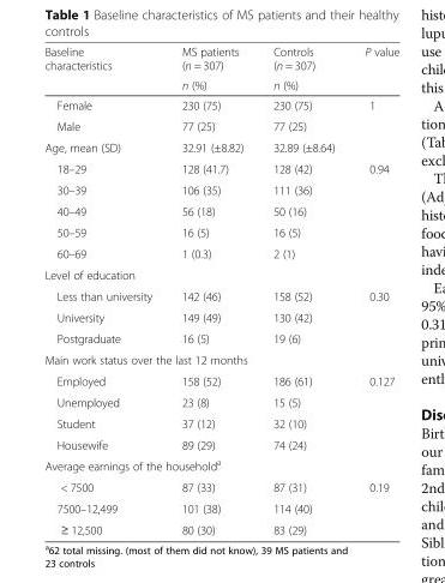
<table><thead><tr><td rowspan="2">Baseline characteristics</td><td rowspan="2">MS patients (n = 307) n (%)</td><td rowspan="2">Controls (n = 307) n (%)</td><td rowspan="2">P value</td></tr><tr></tr></thead><tbody><tr><td>Female</td><td>230 (75)</td><td>230 (75)</td><td rowspan="2">1</td></tr><tr><td>Male</td><td>77 (25)</td><td>77 (25)</td></tr><tr><td>Age, mean (SD)</td><td>32.91 (±8.82)</td><td>32.89 (±8.64)</td><td></td></tr><tr><td>18–29</td><td>128 (41.7)</td><td>128 (42)</td><td rowspan="5">0.94</td></tr><tr><td>30–39</td><td>106 (35)</td><td>111 (36)</td></tr><tr><td>40–49</td><td>56 (18)</td><td>50 (16)</td></tr><tr><td>50–59</td><td>16 (5)</td><td>16 (5)</td></tr><tr><td>60–69</td><td>1 (0.3)</td><td>2 (1)</td></tr><tr><td colspan="4">Level of education</td></tr><tr><td>Less than university</td><td>142 (46)</td><td>158 (52)</td><td rowspan="3">0.30</td></tr><tr><td>University</td><td>149 (49)</td><td>130 (42)</td></tr><tr><td>Postgraduate</td><td>16 (5)</td><td>19 (6)</td></tr><tr><td colspan="4">Main work status over the last 12 months</td></tr><tr><td>Employed</td><td>158 (52)</td><td>186 (61)</td><td rowspan="4">0.127</td></tr><tr><td>Unemployed</td><td>23 (8)</td><td>15 (5)</td></tr><tr><td>Student</td><td>37 (12)</td><td>32 (10)</td></tr><tr><td>Housewife</td><td>89 (29)</td><td>74 (24)</td></tr><tr><td colspan="4">Average earnings of the household<sup>a</sup></td></tr><tr><td>&lt; 7500</td><td>87 (33)</td><td>87 (31)</td><td rowspan="3">0.19</td></tr><tr><td>7500–12,499</td><td>101 (38)</td><td>114 (40)</td></tr><tr><td>≥ 12,500</td><td>80 (30)</td><td>83 (29)</td></tr></tbody></table>